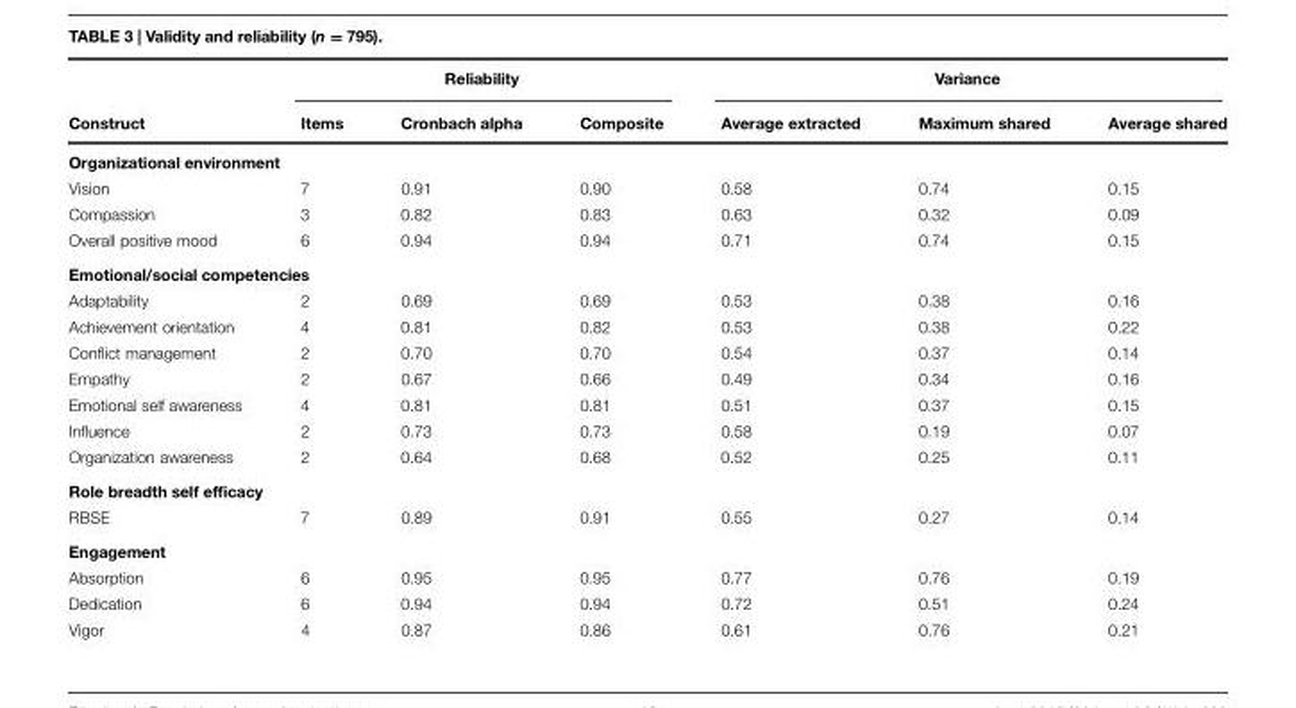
<table><thead><tr><td rowspan="2">Construct</td><td colspan="3">Reliability</td><td colspan="3">Variance</td></tr><tr><td>Items</td><td>Cronbach alpha</td><td>Composite</td><td>Average extracted</td><td>Maximum shared</td><td>Average shared</td></tr></thead><tbody><tr><td colspan="7">Organizational environment</td></tr><tr><td>Vision</td><td>7</td><td>0.91</td><td>0.90</td><td>0.58</td><td>0.74</td><td>0.15</td></tr><tr><td>Compassion</td><td>3</td><td>0.82</td><td>0.83</td><td>0.63</td><td>0.32</td><td>0.09</td></tr><tr><td>Overall positive mood</td><td>6</td><td>0.94</td><td>0.94</td><td>0.71</td><td>0.74</td><td>0.15</td></tr><tr><td colspan="7">Emotional/social competencies</td></tr><tr><td>Adaptability</td><td>2</td><td>0.69</td><td>0.69</td><td>0.53</td><td>0.38</td><td>0.16</td></tr><tr><td>Achievement orientation</td><td>4</td><td>0.81</td><td>0.82</td><td>0.53</td><td>0.38</td><td>0.22</td></tr><tr><td>Conflict management</td><td>2</td><td>0.70</td><td>0.70</td><td>0.54</td><td>0.37</td><td>0.14</td></tr><tr><td>Empathy</td><td>2</td><td>0.67</td><td>0.66</td><td>0.49</td><td>0.34</td><td>0.16</td></tr><tr><td>Emotional self awareness</td><td>4</td><td>0.81</td><td>0.81</td><td>0.51</td><td>0.37</td><td>0.15</td></tr><tr><td>Influence</td><td>2</td><td>0.73</td><td>0.73</td><td>0.58</td><td>0.19</td><td>0.07</td></tr><tr><td>Organization awareness</td><td>2</td><td>0.64</td><td>0.68</td><td>0.52</td><td>0.25</td><td>0.11</td></tr><tr><td colspan="7">Role breadth self efficacy</td></tr><tr><td>RBSE</td><td>7</td><td>0.89</td><td>0.91</td><td>0.55</td><td>0.27</td><td>0.14</td></tr><tr><td colspan="7">Engagement</td></tr><tr><td>Absorption</td><td>6</td><td>0.95</td><td>0.95</td><td>0.77</td><td>0.76</td><td>0.19</td></tr><tr><td>Dedication</td><td>6</td><td>0.94</td><td>0.94</td><td>0.72</td><td>0.51</td><td>0.24</td></tr><tr><td>Vigor</td><td>4</td><td>0.87</td><td>0.86</td><td>0.61</td><td>0.76</td><td>0.21</td></tr></tbody></table>